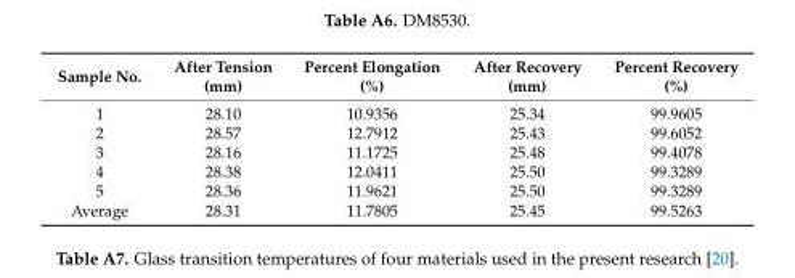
<table><thead><tr><td>Sample No.</td><td>After Tension (mm)</td><td>Percent Elongation (%)</td><td>After Recovery (mm)</td><td>Percent Recovery (%)</td></tr></thead><tbody><tr><td>1</td><td>28.10</td><td>10.9356</td><td>25.34</td><td>99.9605</td></tr><tr><td>2</td><td>28.57</td><td>12.7912</td><td>25.43</td><td>99.6052</td></tr><tr><td>3</td><td>28.16</td><td>11.1725</td><td>25.48</td><td>99.4078</td></tr><tr><td>4</td><td>28.38</td><td>12.0411</td><td>25.50</td><td>99.3289</td></tr><tr><td>5</td><td>28.36</td><td>11.9621</td><td>25.50</td><td>99.3289</td></tr><tr><td>Average</td><td>28.31</td><td>11.7805</td><td>25.45</td><td>99.5263</td></tr></tbody></table>